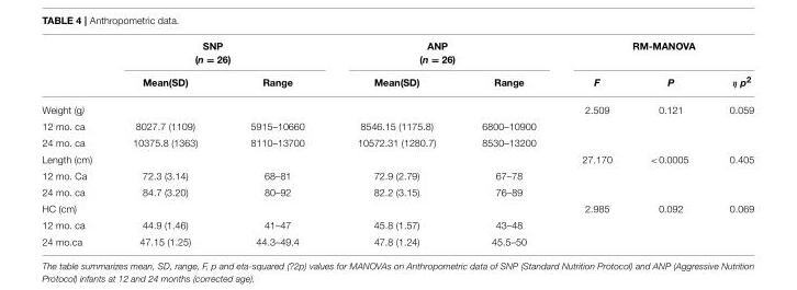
<table><thead><tr><td rowspan="2"></td><td colspan="2">SNP (n = 26)</td><td colspan="2">ANP (n = 26)</td><td colspan="3">RM-MANOVA</td></tr><tr><td>Mean(SD)</td><td>Range</td><td>Mean(SD)</td><td>Range</td><td>F</td><td>P</td><td>η p<sup>2</sup></td></tr></thead><tbody><tr><td>Weight (g)</td><td></td><td></td><td></td><td></td><td>2.509</td><td>0.121</td><td>0.059</td></tr><tr><td>12 mo. ca</td><td>8027.7 (1109)</td><td>5915–10660</td><td>8546.15 (1175.8)</td><td>6800–10900</td><td></td><td></td><td></td></tr><tr><td>24 mo. ca</td><td>10375.8 (1363)</td><td>8110–13700</td><td>10572.31 (1280.7)</td><td>8530–13200</td><td></td><td></td><td></td></tr><tr><td>Length (cm)</td><td></td><td></td><td></td><td></td><td>27.170</td><td>&lt;0.0005</td><td>0.405</td></tr><tr><td>12 mo. Ca</td><td>72.3 (3.14)</td><td>68–81</td><td>72.9 (2.79)</td><td>67–78</td><td></td><td></td><td></td></tr><tr><td>24 mo. ca</td><td>84.7 (3.20)</td><td>80–92</td><td>82.2 (3.15)</td><td>76–89</td><td></td><td></td><td></td></tr><tr><td>HC (cm)</td><td></td><td></td><td></td><td></td><td>2.985</td><td>0.092</td><td>0.069</td></tr><tr><td>12 mo. ca</td><td>44.9 (1.46)</td><td>41–47</td><td>45.8 (1.57)</td><td>43–48</td><td></td><td></td><td></td></tr><tr><td>24 mo.ca</td><td>47.15 (1.25)</td><td>44.3–49.4</td><td>47.8 (1.24)</td><td>45.5–50</td><td></td><td></td><td></td></tr></tbody></table>